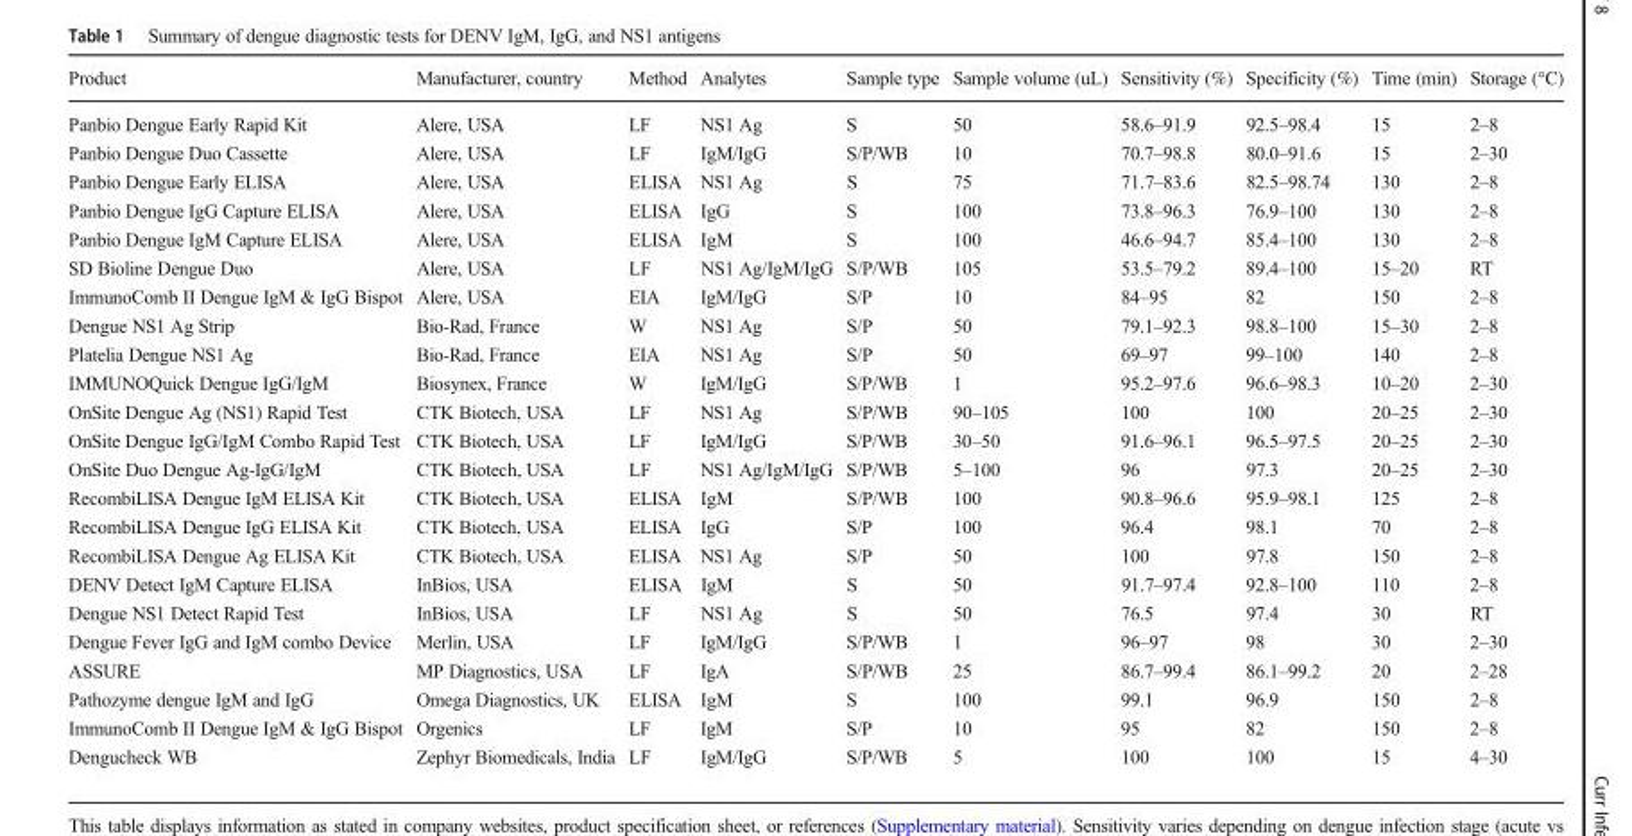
<table><thead><tr><td>Product</td><td>Manufacturer, country</td><td>Method</td><td>Analytes</td><td>Sample type</td><td>Sample volume (uL)</td><td>Sensitivity (%)</td><td>Specificity (%)</td><td>Time (min)</td><td>Storage (°C)</td></tr></thead><tbody><tr><td>Panbio Dengue Early Rapid Kit</td><td>Alere, USA</td><td>LF</td><td>NS1 Ag</td><td>S</td><td>50</td><td>58.6–91.9</td><td>92.5–98.4</td><td>15</td><td>2–8</td></tr><tr><td>Panbio Dengue Duo Cassette</td><td>Alere, USA</td><td>LF</td><td>IgM/IgG</td><td>S/P/WB</td><td>10</td><td>70.7–98.8</td><td>80.0–91.6</td><td>15</td><td>2–30</td></tr><tr><td>Panbio Dengue Early ELISA</td><td>Alere, USA</td><td>ELISA</td><td>NS1 Ag</td><td>S</td><td>75</td><td>71.7–83.6</td><td>82.5–98.74</td><td>130</td><td>2–8</td></tr><tr><td>Panbio Dengue IgG Capture ELISA</td><td>Alere, USA</td><td>ELISA</td><td>IgG</td><td>S</td><td>100</td><td>73.8–96.3</td><td>76.9–100</td><td>130</td><td>2–8</td></tr><tr><td>Panbio Dengue IgM Capture ELISA</td><td>Alere, USA</td><td>ELISA</td><td>IgM</td><td>S</td><td>100</td><td>46.6–94.7</td><td>85.4–100</td><td>130</td><td>2–8</td></tr><tr><td>SD Bioline Dengue Duo</td><td>Alere, USA</td><td>LF</td><td>NS1 Ag/IgM/IgG</td><td>S/P/WB</td><td>105</td><td>53.5–79.2</td><td>89.4–100</td><td>15–20</td><td>RT</td></tr><tr><td>ImmunoComb II Dengue IgM &amp; IgG Bispot</td><td>Alere, USA</td><td>EIA</td><td>IgM/IgG</td><td>S/P</td><td>10</td><td>84–95</td><td>82</td><td>150</td><td>2–8</td></tr><tr><td>Dengue NS1 Ag Strip</td><td>Bio-Rad, France</td><td>W</td><td>NS1 Ag</td><td>S/P</td><td>50</td><td>79.1–92.3</td><td>98.8–100</td><td>15–30</td><td>2–8</td></tr><tr><td>Platelia Dengue NS1 Ag</td><td>Bio-Rad, France</td><td>EIA</td><td>NS1 Ag</td><td>S/P</td><td>50</td><td>69–97</td><td>99–100</td><td>140</td><td>2–8</td></tr><tr><td>IMMUNOQuick Dengue IgG/IgM</td><td>Biosynex, France</td><td>W</td><td>IgM/IgG</td><td>S/P/WB</td><td>1</td><td>95.2–97.6</td><td>96.6–98.3</td><td>10–20</td><td>2–30</td></tr><tr><td>OnSite Dengue Ag (NS1) Rapid Test</td><td>CTK Biotech, USA</td><td>LF</td><td>NS1 Ag</td><td>S/P/WB</td><td>90–105</td><td>100</td><td>100</td><td>20–25</td><td>2–30</td></tr><tr><td>OnSite Dengue IgG/IgM Combo Rapid Test</td><td>CTK Biotech, USA</td><td>LF</td><td>IgM/IgG</td><td>S/P/WB</td><td>30–50</td><td>91.6–96.1</td><td>96.5–97.5</td><td>20–25</td><td>2–30</td></tr><tr><td>OnSite Duo Dengue Ag-IgG/IgM</td><td>CTK Biotech, USA</td><td>LF</td><td>NS1 Ag/IgM/IgG</td><td>S/P/WB</td><td>5–100</td><td>96</td><td>97.3</td><td>20–25</td><td>2–30</td></tr><tr><td>RecombiLISA Dengue IgM ELISA Kit</td><td>CTK Biotech, USA</td><td>ELISA</td><td>IgM</td><td>S/P/WB</td><td>100</td><td>90.8–96.6</td><td>95.9–98.1</td><td>125</td><td>2–8</td></tr><tr><td>RecombiLISA Dengue IgG ELISA Kit</td><td>CTK Biotech, USA</td><td>ELISA</td><td>IgG</td><td>S/P</td><td>100</td><td>96.4</td><td>98.1</td><td>70</td><td>2–8</td></tr><tr><td>RecombiLISA Dengue Ag ELISA Kit</td><td>CTK Biotech, USA</td><td>ELISA</td><td>NS1 Ag</td><td>S/P</td><td>50</td><td>100</td><td>97.8</td><td>150</td><td>2–8</td></tr><tr><td>DENV Detect IgM Capture ELISA</td><td>InBios, USA</td><td>ELISA</td><td>IgM</td><td>S</td><td>50</td><td>91.7–97.4</td><td>92.8–100</td><td>110</td><td>2–8</td></tr><tr><td>Dengue NS1 Detect Rapid Test</td><td>InBios, USA</td><td>LF</td><td>NS1 Ag</td><td>S</td><td>50</td><td>76.5</td><td>97.4</td><td>30</td><td>RT</td></tr><tr><td>Dengue Fever IgG and IgM combo Device</td><td>Merlin, USA</td><td>LF</td><td>IgM/IgG</td><td>S/P/WB</td><td>1</td><td>96–97</td><td>98</td><td>30</td><td>2–30</td></tr><tr><td>ASSURE</td><td>MP Diagnostics, USA</td><td>LF</td><td>IgA</td><td>S/P/WB</td><td>25</td><td>86.7–99.4</td><td>86.1–99.2</td><td>20</td><td>2–28</td></tr><tr><td>Pathozyme dengue IgM and IgG</td><td>Omega Diagnostics, UK</td><td>ELISA</td><td>IgM</td><td>S</td><td>100</td><td>99.1</td><td>96.9</td><td>150</td><td>2–8</td></tr><tr><td>ImmunoComb II Dengue IgM &amp; IgG Bispot</td><td>Orgenics</td><td>LF</td><td>IgM</td><td>S/P</td><td>10</td><td>95</td><td>82</td><td>150</td><td>2–8</td></tr><tr><td>Dengucheck WB</td><td>Zephyr Biomedicals, India</td><td>LF</td><td>IgM/IgG</td><td>S/P/WB</td><td>5</td><td>100</td><td>100</td><td>15</td><td>4–30</td></tr></tbody></table>